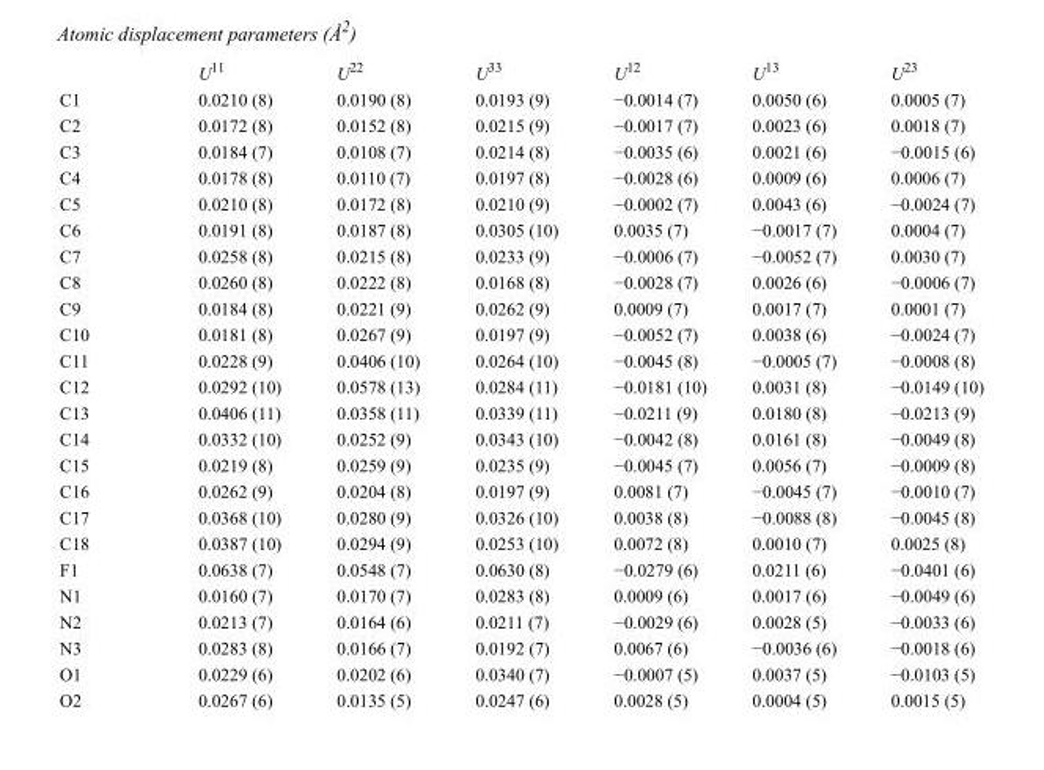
<table><thead><tr><td></td><td>U<sup>11</sup></td><td>U<sup>22</sup></td><td>U<sup>33</sup></td><td>U<sup>12</sup></td><td>U<sup>13</sup></td><td>U<sup>23</sup></td></tr></thead><tbody><tr><td>C1</td><td>0.0210 (8)</td><td>0.0190 (8)</td><td>0.0193 (9)</td><td>−0.0014 (7)</td><td>0.0050 (6)</td><td>0.0005 (7)</td></tr><tr><td>C2</td><td>0.0172 (8)</td><td>0.0152 (8)</td><td>0.0215 (9)</td><td>−0.0017 (7)</td><td>0.0023 (6)</td><td>0.0018 (7)</td></tr><tr><td>C3</td><td>0.0184 (7)</td><td>0.0108 (7)</td><td>0.0214 (8)</td><td>−0.0035 (6)</td><td>0.0021 (6)</td><td>−0.0015 (6)</td></tr><tr><td>C4</td><td>0.0178 (8)</td><td>0.0110 (7)</td><td>0.0197 (8)</td><td>−0.0028 (6)</td><td>0.0009 (6)</td><td>0.0006 (7)</td></tr><tr><td>C5</td><td>0.0210 (8)</td><td>0.0172 (8)</td><td>0.0210 (9)</td><td>−0.0002 (7)</td><td>0.0043 (6)</td><td>−0.0024 (7)</td></tr><tr><td>C6</td><td>0.0191 (8)</td><td>0.0187 (8)</td><td>0.0305 (10)</td><td>0.0035 (7)</td><td>−0.0017 (7)</td><td>0.0004 (7)</td></tr><tr><td>C7</td><td>0.0258 (8)</td><td>0.0215 (8)</td><td>0.0233 (9)</td><td>−0.0006 (7)</td><td>−0.0052 (7)</td><td>0.0030 (7)</td></tr><tr><td>C8</td><td>0.0260 (8)</td><td>0.0222 (8)</td><td>0.0168 (8)</td><td>−0.0028 (7)</td><td>0.0026 (6)</td><td>−0.0006 (7)</td></tr><tr><td>C9</td><td>0.0184 (8)</td><td>0.0221 (9)</td><td>0.0262 (9)</td><td>0.0009 (7)</td><td>0.0017 (7)</td><td>0.0001 (7)</td></tr><tr><td>C10</td><td>0.0181 (8)</td><td>0.0267 (9)</td><td>0.0197 (9)</td><td>−0.0052 (7)</td><td>0.0038 (6)</td><td>−0.0024 (7)</td></tr><tr><td>C11</td><td>0.0228 (9)</td><td>0.0406 (10)</td><td>0.0264 (10)</td><td>−0.0045 (8)</td><td>−0.0005 (7)</td><td>−0.0008 (8)</td></tr><tr><td>C12</td><td>0.0292 (10)</td><td>0.0578 (13)</td><td>0.0284 (11)</td><td>−0.0181 (10)</td><td>0.0031 (8)</td><td>−0.0149 (10)</td></tr><tr><td>C13</td><td>0.0406 (11)</td><td>0.0358 (11)</td><td>0.0339 (11)</td><td>−0.0211 (9)</td><td>0.0180 (8)</td><td>−0.0213 (9)</td></tr><tr><td>C14</td><td>0.0332 (10)</td><td>0.0252 (9)</td><td>0.0343 (10)</td><td>−0.0042 (8)</td><td>0.0161 (8)</td><td>−0.0049 (8)</td></tr><tr><td>C15</td><td>0.0219 (8)</td><td>0.0259 (9)</td><td>0.0235 (9)</td><td>−0.0045 (7)</td><td>0.0056 (7)</td><td>−0.0009 (8)</td></tr><tr><td>C16</td><td>0.0262 (9)</td><td>0.0204 (8)</td><td>0.0197 (9)</td><td>0.0081 (7)</td><td>−0.0045 (7)</td><td>−0.0010 (7)</td></tr><tr><td>C17</td><td>0.0368 (10)</td><td>0.0280 (9)</td><td>0.0326 (10)</td><td>0.0038 (8)</td><td>−0.0088 (8)</td><td>−0.0045 (8)</td></tr><tr><td>C18</td><td>0.0387 (10)</td><td>0.0294 (9)</td><td>0.0253 (10)</td><td>0.0072 (8)</td><td>0.0010 (7)</td><td>0.0025 (8)</td></tr><tr><td>F1</td><td>0.0638 (7)</td><td>0.0548 (7)</td><td>0.0630 (8)</td><td>−0.0279 (6)</td><td>0.0211 (6)</td><td>−0.0401 (6)</td></tr><tr><td>N1</td><td>0.0160 (7)</td><td>0.0170 (7)</td><td>0.0283 (8)</td><td>0.0009 (6)</td><td>0.0017 (6)</td><td>−0.0049 (6)</td></tr><tr><td>N2</td><td>0.0213 (7)</td><td>0.0164 (6)</td><td>0.0211 (7)</td><td>−0.0029 (6)</td><td>0.0028 (5)</td><td>−0.0033 (6)</td></tr><tr><td>N3</td><td>0.0283 (8)</td><td>0.0166 (7)</td><td>0.0192 (7)</td><td>0.0067 (6)</td><td>−0.0036 (6)</td><td>−0.0018 (6)</td></tr><tr><td>O1</td><td>0.0229 (6)</td><td>0.0202 (6)</td><td>0.0340 (7)</td><td>−0.0007 (5)</td><td>0.0037 (5)</td><td>−0.0103 (5)</td></tr><tr><td>O2</td><td>0.0267 (6)</td><td>0.0135 (5)</td><td>0.0247 (6)</td><td>0.0028 (5)</td><td>0.0004 (5)</td><td>0.0015 (5)</td></tr></tbody></table>